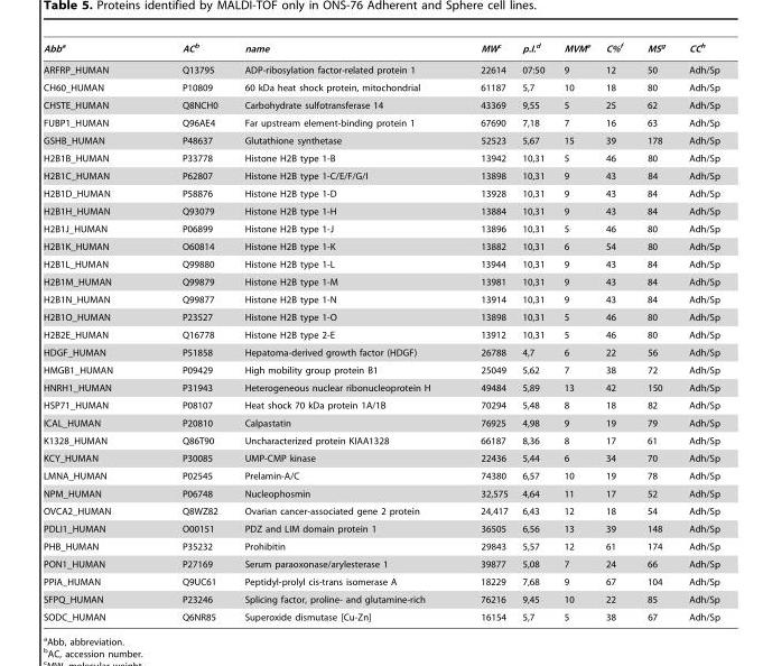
<table><thead><tr><td>Abba</td><td>ACb</td><td>name</td><td>MWc</td><td>p.I.d</td><td>MVMe</td><td>C%f</td><td>MSg</td><td>CCh</td></tr></thead><tbody><tr><td>ARFRP_HUMAN</td><td>Q13795</td><td>ADP-ribosylation factor-related protein 1</td><td>22614</td><td>07:50</td><td>9</td><td>12</td><td>50</td><td>Adh/Sp</td></tr><tr><td>CH60_HUMAN</td><td>P10809</td><td>60 kDa heat shock protein, mitochondrial</td><td>61187</td><td>5,7</td><td>10</td><td>18</td><td>80</td><td>Adh/Sp</td></tr><tr><td>CHSTE_HUMAN</td><td>Q8NCH0</td><td>Carbohydrate sulfotransferase 14</td><td>43369</td><td>9,55</td><td>5</td><td>25</td><td>62</td><td>Adh/Sp</td></tr><tr><td>FUBP1_HUMAN</td><td>Q96AE4</td><td>Far upstream element-binding protein 1</td><td>67690</td><td>7,18</td><td>7</td><td>16</td><td>63</td><td>Adh/Sp</td></tr><tr><td>GSHB_HUMAN</td><td>P48637</td><td>Glutathione synthetase</td><td>52523</td><td>5,67</td><td>15</td><td>39</td><td>178</td><td>Adh/Sp</td></tr><tr><td>H2B1B_HUMAN</td><td>P33778</td><td>Histone H2B type 1-B</td><td>13942</td><td>10,31</td><td>5</td><td>46</td><td>80</td><td>Adh/Sp</td></tr><tr><td>H2B1C_HUMAN</td><td>P62807</td><td>Histone H2B type 1-C/E/F/G/I</td><td>13898</td><td>10,31</td><td>9</td><td>43</td><td>84</td><td>Adh/Sp</td></tr><tr><td>H2B1D_HUMAN</td><td>P58876</td><td>Histone H2B type 1-D</td><td>13928</td><td>10,31</td><td>9</td><td>43</td><td>84</td><td>Adh/Sp</td></tr><tr><td>H2B1H_HUMAN</td><td>Q93079</td><td>Histone H2B type 1-H</td><td>13884</td><td>10,31</td><td>9</td><td>43</td><td>84</td><td>Adh/Sp</td></tr><tr><td>H2B1J_HUMAN</td><td>P06899</td><td>Histone H2B type 1-J</td><td>13896</td><td>10,31</td><td>5</td><td>46</td><td>80</td><td>Adh/Sp</td></tr><tr><td>H2B1K_HUMAN</td><td>O60814</td><td>Histone H2B type 1-K</td><td>13882</td><td>10,31</td><td>6</td><td>54</td><td>80</td><td>Adh/Sp</td></tr><tr><td>H2B1L_HUMAN</td><td>Q99880</td><td>Histone H2B type 1-L</td><td>13944</td><td>10,31</td><td>9</td><td>43</td><td>84</td><td>Adh/Sp</td></tr><tr><td>H2B1M_HUMAN</td><td>Q99879</td><td>Histone H2B type 1-M</td><td>13981</td><td>10,31</td><td>9</td><td>43</td><td>84</td><td>Adh/Sp</td></tr><tr><td>H2B1N_HUMAN</td><td>Q99877</td><td>Histone H2B type 1-N</td><td>13914</td><td>10,31</td><td>9</td><td>43</td><td>84</td><td>Adh/Sp</td></tr><tr><td>H2B1O_HUMAN</td><td>P23527</td><td>Histone H2B type 1-O</td><td>13898</td><td>10,31</td><td>5</td><td>46</td><td>80</td><td>Adh/Sp</td></tr><tr><td>H2B2E_HUMAN</td><td>Q16778</td><td>Histone H2B type 2-E</td><td>13912</td><td>10,31</td><td>5</td><td>46</td><td>80</td><td>Adh/Sp</td></tr><tr><td>HDGF_HUMAN</td><td>P51858</td><td>Hepatoma-derived growth factor (HDGF)</td><td>26788</td><td>4,7</td><td>6</td><td>22</td><td>56</td><td>Adh/Sp</td></tr><tr><td>HMGB1_HUMAN</td><td>P09429</td><td>High mobility group protein B1</td><td>25049</td><td>5,62</td><td>7</td><td>38</td><td>72</td><td>Adh/Sp</td></tr><tr><td>HNRH1_HUMAN</td><td>P31943</td><td>Heterogeneous nuclear ribonucleoprotein H</td><td>49484</td><td>5,89</td><td>13</td><td>42</td><td>150</td><td>Adh/Sp</td></tr><tr><td>HSP71_HUMAN</td><td>P08107</td><td>Heat shock 70 kDa protein 1A/1B</td><td>70294</td><td>5,48</td><td>8</td><td>18</td><td>82</td><td>Adh/Sp</td></tr><tr><td>ICAL_HUMAN</td><td>P20810</td><td>Calpastatin</td><td>76925</td><td>4,98</td><td>9</td><td>19</td><td>79</td><td>Adh/Sp</td></tr><tr><td>K1328_HUMAN</td><td>Q86T90</td><td>Uncharacterized protein KIAA1328</td><td>66187</td><td>8,36</td><td>8</td><td>17</td><td>61</td><td>Adh/Sp</td></tr><tr><td>KCY_HUMAN</td><td>P30085</td><td>UMP-CMP kinase</td><td>22436</td><td>5,44</td><td>6</td><td>34</td><td>70</td><td>Adh/Sp</td></tr><tr><td>LMNA_HUMAN</td><td>P02545</td><td>Prelamin-A/C</td><td>74380</td><td>6,57</td><td>10</td><td>19</td><td>78</td><td>Adh/Sp</td></tr><tr><td>NPM_HUMAN</td><td>P06748</td><td>Nucleophosmin</td><td>32,575</td><td>4,64</td><td>11</td><td>17</td><td>52</td><td>Adh/Sp</td></tr><tr><td>OVCA2_HUMAN</td><td>Q8WZ82</td><td>Ovarian cancer-associated gene 2 protein</td><td>24,417</td><td>6,43</td><td>12</td><td>18</td><td>54</td><td>Adh/Sp</td></tr><tr><td>PDLI1_HUMAN</td><td>O00151</td><td>PDZ and LIM domain protein 1</td><td>36505</td><td>6,56</td><td>13</td><td>39</td><td>148</td><td>Adh/Sp</td></tr><tr><td>PHB_HUMAN</td><td>P35232</td><td>Prohibitin</td><td>29843</td><td>5,57</td><td>12</td><td>61</td><td>174</td><td>Adh/Sp</td></tr><tr><td>PON1_HUMAN</td><td>P27169</td><td>Serum paraoxonase/arylesterase 1</td><td>39877</td><td>5,08</td><td>7</td><td>24</td><td>66</td><td>Adh/Sp</td></tr><tr><td>PPIA_HUMAN</td><td>Q9UC61</td><td>Peptidyl-prolyl cis-trans isomerase A</td><td>18229</td><td>7,68</td><td>9</td><td>67</td><td>104</td><td>Adh/Sp</td></tr><tr><td>SFPQ_HUMAN</td><td>P23246</td><td>Splicing factor, proline- and glutamine-rich</td><td>76216</td><td>9,45</td><td>10</td><td>22</td><td>85</td><td>Adh/Sp</td></tr><tr><td>SODC_HUMAN</td><td>Q6NR85</td><td>Superoxide dismutase [Cu-Zn]</td><td>16154</td><td>5,7</td><td>5</td><td>38</td><td>67</td><td>Adh/Sp</td></tr></tbody></table>